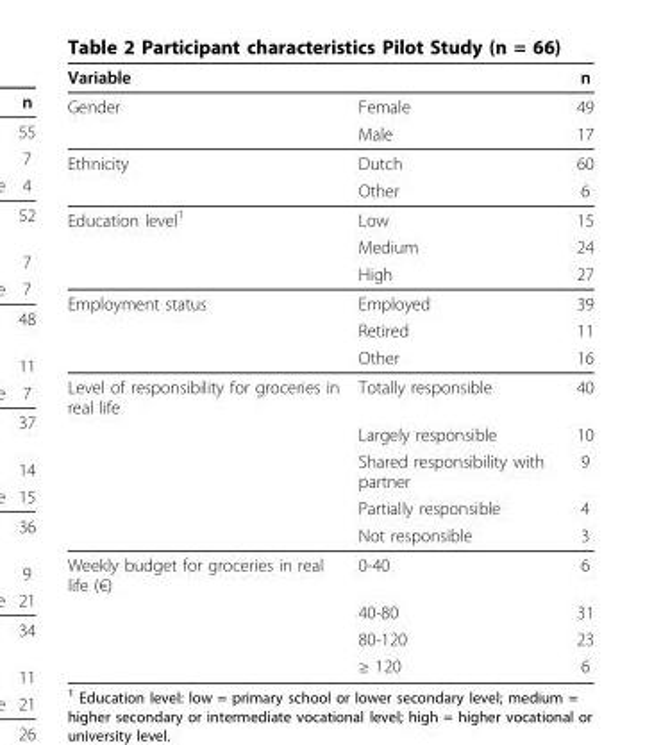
<table><thead><tr><td>Variable</td><td></td><td>n</td></tr></thead><tbody><tr><td rowspan="2">Gender</td><td>Female</td><td>49</td></tr><tr><td>Male</td><td>17</td></tr><tr><td rowspan="2">Ethnicity</td><td>Dutch</td><td>60</td></tr><tr><td>Other</td><td>6</td></tr><tr><td rowspan="3">Education level<sup>1</sup></td><td>Low</td><td>15</td></tr><tr><td>Medium</td><td>24</td></tr><tr><td>High</td><td>27</td></tr><tr><td rowspan="3">Employment status</td><td>Employed</td><td>39</td></tr><tr><td>Retired</td><td>11</td></tr><tr><td>Other</td><td>16</td></tr><tr><td rowspan="5">Level of responsibility for groceries in real life</td><td>Totally responsible</td><td>40</td></tr><tr><td>Largely responsible</td><td>10</td></tr><tr><td>Shared responsibility with partner</td><td>9</td></tr><tr><td>Partially responsible</td><td>4</td></tr><tr><td>Not responsible</td><td>3</td></tr><tr><td rowspan="4">Weekly budget for groceries in real life (€)</td><td>0-40</td><td>6</td></tr><tr><td>40-80</td><td>31</td></tr><tr><td>80-120</td><td>23</td></tr><tr><td>≥ 120</td><td>6</td></tr></tbody></table>